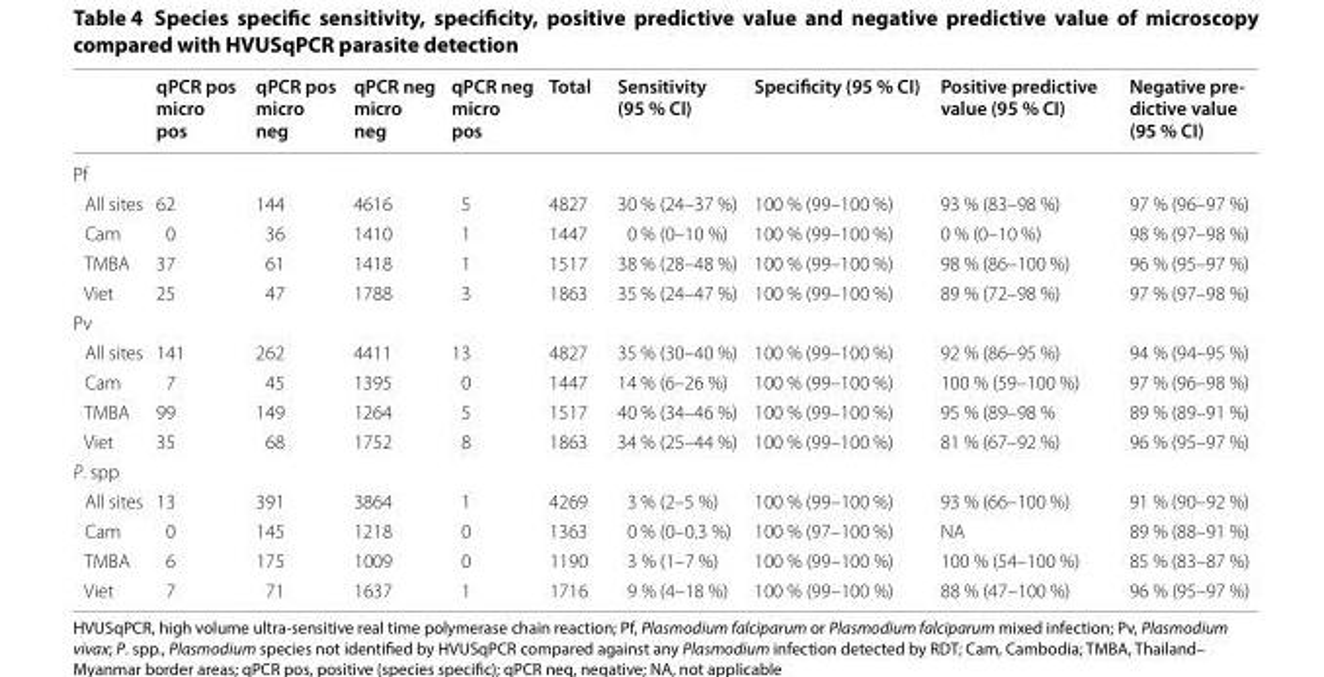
<table><thead><tr><td></td><td>qPCR pos micro pos</td><td>qPCR pos micro neg</td><td>qPCR neg micro neg</td><td>qPCR neg micro pos</td><td>Total</td><td>Sensitivity (95 % CI)</td><td>Specificity (95 % CI)</td><td>Positive predictive value (95 % CI)</td><td>Negative pre- dictive value (95 % CI)</td></tr></thead><tbody><tr><td colspan="10">Pf</td></tr><tr><td>All sites</td><td>62</td><td>144</td><td>4616</td><td>5</td><td>4827</td><td>30 % (24–37 %)</td><td>100 % (99–100 %)</td><td>93 % (83–98 %)</td><td>97 % (96–97 %)</td></tr><tr><td>Cam</td><td>0</td><td>36</td><td>1410</td><td>1</td><td>1447</td><td>0 % (0–10 %)</td><td>100 % (99–100 %)</td><td>0 % (0–10 %)</td><td>98 % (97–98 %)</td></tr><tr><td>TMBA</td><td>37</td><td>61</td><td>1418</td><td>1</td><td>1517</td><td>38 % (28–48 %)</td><td>100 % (99–100 %)</td><td>98 % (86–100 %)</td><td>96 % (95–97 %)</td></tr><tr><td>Viet</td><td>25</td><td>47</td><td>1788</td><td>3</td><td>1863</td><td>35 % (24–47 %)</td><td>100 % (99–100 %)</td><td>89 % (72–98 %)</td><td>97 % (97–98 %)</td></tr><tr><td colspan="10">Pv</td></tr><tr><td>All sites</td><td>141</td><td>262</td><td>4411</td><td>13</td><td>4827</td><td>35 % (30–40 %)</td><td>100 % (99–100 %)</td><td>92 % (86–95 %)</td><td>94 % (94–95 %)</td></tr><tr><td>Cam</td><td>7</td><td>45</td><td>1395</td><td>0</td><td>1447</td><td>14 % (6–26 %)</td><td>100 % (99–100 %)</td><td>100 % (59–100 %)</td><td>97 % (96–98 %)</td></tr><tr><td>TMBA</td><td>99</td><td>149</td><td>1264</td><td>5</td><td>1517</td><td>40 % (34–46 %)</td><td>100 % (99–100 %)</td><td>95 % (89–98 %</td><td>89 % (89–91 %)</td></tr><tr><td>Viet</td><td>35</td><td>68</td><td>1752</td><td>8</td><td>1863</td><td>34 % (25–44 %)</td><td>100 % (99–100 %)</td><td>81 % (67–92 %)</td><td>96 % (95–97 %)</td></tr><tr><td colspan="10">P. spp</td></tr><tr><td>All sites</td><td>13</td><td>391</td><td>3864</td><td>1</td><td>4269</td><td>3 % (2–5 %)</td><td>100 % (99–100 %)</td><td>93 % (66–100 %)</td><td>91 % (90–92 %)</td></tr><tr><td>Cam</td><td>0</td><td>145</td><td>1218</td><td>0</td><td>1363</td><td>0 % (0–0.3 %)</td><td>100 % (97–100 %)</td><td>NA</td><td>89 % (88–91 %)</td></tr><tr><td>TMBA</td><td>6</td><td>175</td><td>1009</td><td>0</td><td>1190</td><td>3 % (1–7 %)</td><td>100 % (99–100 %)</td><td>100 % (54–100 %)</td><td>85 % (83–87 %)</td></tr><tr><td>Viet</td><td>7</td><td>71</td><td>1637</td><td>1</td><td>1716</td><td>9 % (4–18 %)</td><td>100 % (99–100 %)</td><td>88 % (47–100 %)</td><td>96 % (95–97 %)</td></tr></tbody></table>